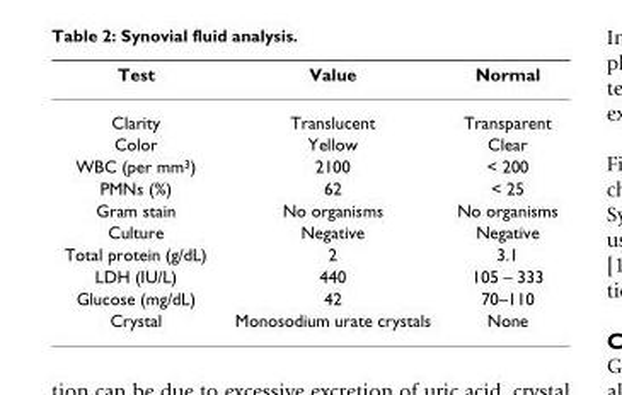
<table><thead><tr><td>Test</td><td>Value</td><td>Normal</td></tr></thead><tbody><tr><td>Clarity</td><td>Translucent</td><td>Transparent</td></tr><tr><td>Color</td><td>Yellow</td><td>Clear</td></tr><tr><td>WBC (per mm<sup>3</sup>)</td><td>2100</td><td>&lt; 200</td></tr><tr><td>PMNs (%)</td><td>62</td><td>&lt; 25</td></tr><tr><td>Gram stain</td><td>No organisms</td><td>No organisms</td></tr><tr><td>Culture</td><td>Negative</td><td>Negative</td></tr><tr><td>Total protein (g/dL)</td><td>2</td><td>3.1</td></tr><tr><td>LDH (IU/L)</td><td>440</td><td>105 – 333</td></tr><tr><td>Glucose (mg/dL)</td><td>42</td><td>70–110</td></tr><tr><td>Crystal</td><td>Monosodium urate crystals</td><td>None</td></tr></tbody></table>